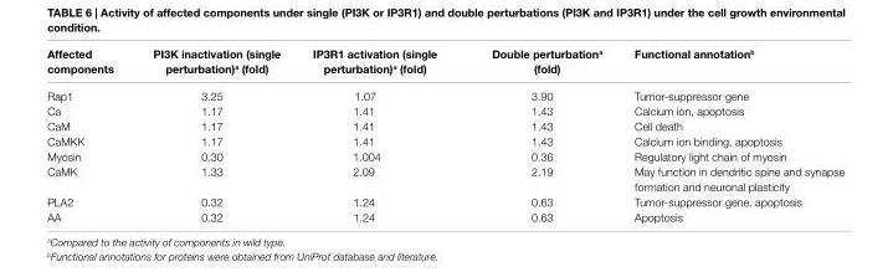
<table><thead><tr><td>affected components</td><td>Pi3K inactivation (single perturbation)<sup>a</sup> (fold)</td><td>iP3r1 activation (single perturbation)<sup>a</sup> (fold)</td><td>Double perturbation<sup>a</sup> (fold)</td><td>Functional annotation<sup>b</sup></td></tr></thead><tbody><tr><td>Rap1</td><td>3.25</td><td>1.07</td><td>3.90</td><td>Tumor-suppressor gene</td></tr><tr><td>Ca</td><td>1.17</td><td>1.41</td><td>1.43</td><td>Calcium ion, apoptosis</td></tr><tr><td>CaM</td><td>1.17</td><td>1.41</td><td>1.43</td><td>Cell death</td></tr><tr><td>CaMKK</td><td>1.17</td><td>1.41</td><td>1.43</td><td>Calcium ion binding, apoptosis</td></tr><tr><td>Myosin</td><td>0.30</td><td>1.004</td><td>0.36</td><td>Regulatory light chain of myosin</td></tr><tr><td>CaMK</td><td>1.33</td><td>2.09</td><td>2.19</td><td>May function in dendritic spine and synapse formation and neuronal plasticity</td></tr><tr><td>PLA2</td><td>0.32</td><td>1.24</td><td>0.63</td><td>Tumor-suppressor gene, apoptosis</td></tr><tr><td>AA</td><td>0.32</td><td>1.24</td><td>0.63</td><td>Apoptosis</td></tr></tbody></table>